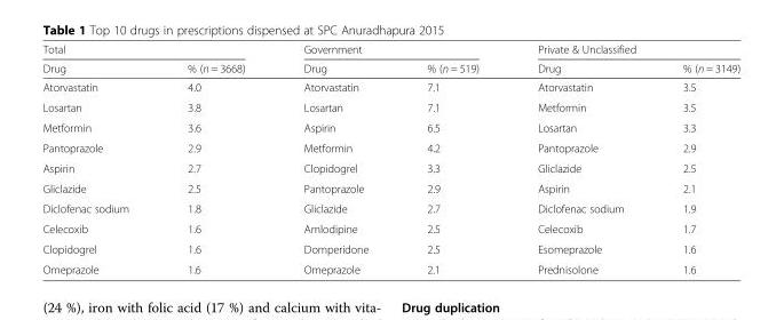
<table><thead><tr><td colspan="2">Total</td><td colspan="2">Government</td><td colspan="2">Private &amp; Unclassified</td></tr><tr><td>Drug</td><td>% (n = 3668)</td><td>Drug</td><td>% (n = 519)</td><td>Drug</td><td>% (n = 3149)</td></tr></thead><tbody><tr><td>Atorvastatin</td><td>4.0</td><td>Atorvastatin</td><td>7.1</td><td>Atorvastatin</td><td>3.5</td></tr><tr><td>Losartan</td><td>3.8</td><td>Losartan</td><td>7.1</td><td>Metformin</td><td>3.5</td></tr><tr><td>Metformin</td><td>3.6</td><td>Aspirin</td><td>6.5</td><td>Losartan</td><td>3.3</td></tr><tr><td>Pantoprazole</td><td>2.9</td><td>Metformin</td><td>4.2</td><td>Pantoprazole</td><td>2.9</td></tr><tr><td>Aspirin</td><td>2.7</td><td>Clopidogrel</td><td>3.3</td><td>Gliclazide</td><td>2.5</td></tr><tr><td>Gliclazide</td><td>2.5</td><td>Pantoprazole</td><td>2.9</td><td>Aspirin</td><td>2.1</td></tr><tr><td>Diclofenac sodium</td><td>1.8</td><td>Gliclazide</td><td>2.7</td><td>Diclofenac sodium</td><td>1.9</td></tr><tr><td>Celecoxib</td><td>1.6</td><td>Amlodipine</td><td>2.5</td><td>Celecoxib</td><td>1.7</td></tr><tr><td>Clopidogrel</td><td>1.6</td><td>Domperidone</td><td>2.5</td><td>Esomeprazole</td><td>1.6</td></tr><tr><td>Omeprazole</td><td>1.6</td><td>Omeprazole</td><td>2.1</td><td>Prednisolone</td><td>1.6</td></tr></tbody></table>